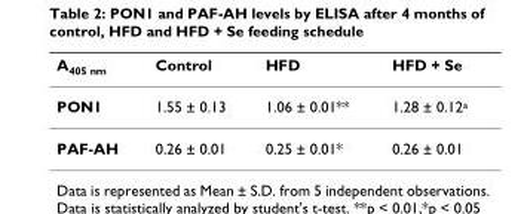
<table><thead><tr><td>A<sub>405 nm</sub></td><td>Control</td><td>HFD</td><td>HFD + Se</td></tr></thead><tbody><tr><td>PON1</td><td>1.55 ± 0.13</td><td>1.06 ± 0.01**</td><td>1.28 ± 0.12<sup>a</sup></td></tr><tr><td>PAF-AH</td><td>0.26 ± 0.01</td><td>0.25 ± 0.01*</td><td>0.26 ± 0.01</td></tr></tbody></table>